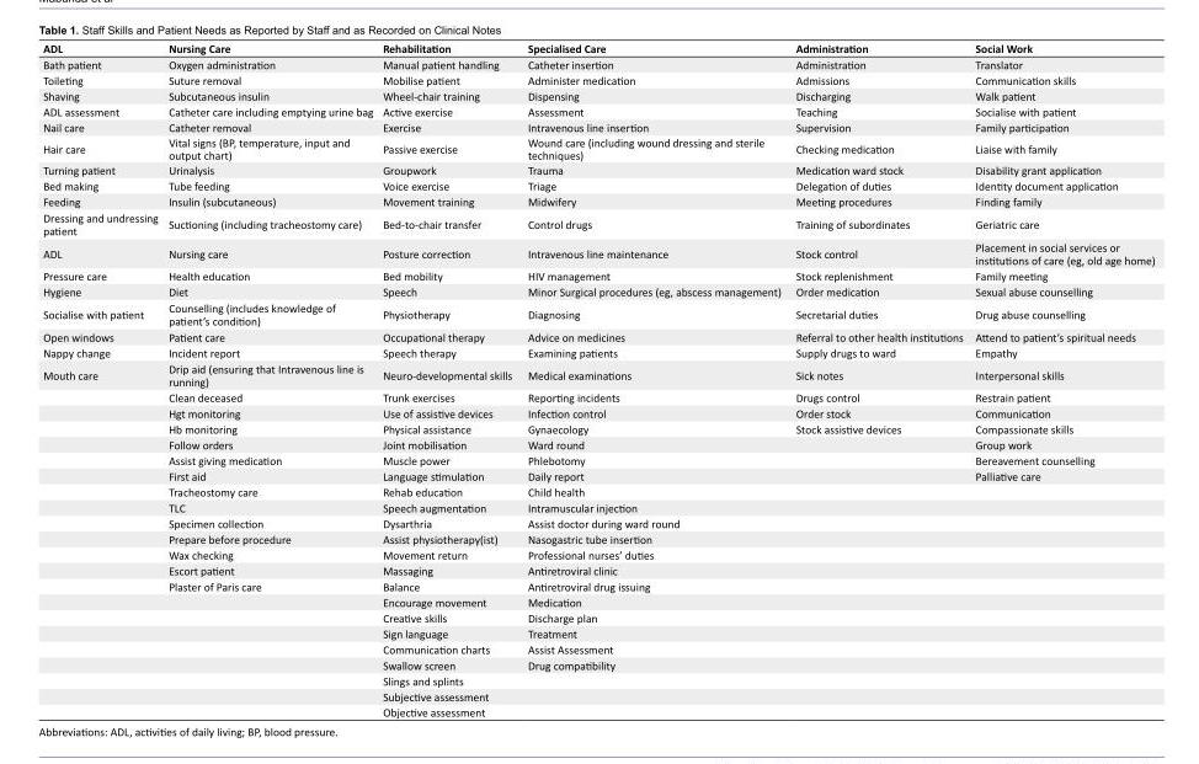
<table><tbody><tr><td>ADL</td><td>Nursing Care</td><td>Rehabilitation</td><td>Specialised Care</td><td>Administration</td><td>Social Work</td></tr><tr><td>Bath patient</td><td>Oxygen administration</td><td>Manual patient handling</td><td>Catheter insertion</td><td>Administration</td><td>Translator</td></tr><tr><td>Toileting</td><td>Suture removal</td><td>Mobilise patient</td><td>Administer medication</td><td>Admissions</td><td>Communication skills</td></tr><tr><td>Shaving</td><td>Subcutaneous insulin</td><td>Wheel-chair training</td><td>Dispensing</td><td>Discharging</td><td>Walk patient</td></tr><tr><td>ADL assessment</td><td>Catheter care including emptying urine bag</td><td>Active exercise</td><td>Assessment</td><td>Teaching</td><td>Socialise with patient</td></tr><tr><td>Nail care</td><td>Catheter removal</td><td>Exercise</td><td>Intravenous line insertion</td><td>Supervision</td><td>Family participation</td></tr><tr><td>Hair care</td><td>Vital signs (BP, temperature, input and output chart)</td><td>Passive exercise</td><td>Wound care (including wound dressing and sterile techniques)</td><td>Checking medication</td><td>Liaise with family</td></tr><tr><td>Turning patient</td><td>Urinalysis</td><td>Groupwork</td><td>Trauma</td><td>Medication ward stock</td><td>Disability grant application</td></tr><tr><td>Bed making</td><td>Tube feeding</td><td>Voice exercise</td><td>Triage</td><td>Delegation of duties</td><td>Identity document application</td></tr><tr><td>Feeding</td><td>Insulin (subcutaneous)</td><td>Movement training</td><td>Midwifery</td><td>Meeting procedures</td><td>Finding family</td></tr><tr><td>Dressing and undressing patient</td><td>Suctioning (including tracheostomy care)</td><td>Bed-to-chair transfer</td><td>Control drugs</td><td>Training of subordinates</td><td>Geriatric care</td></tr><tr><td>ADL</td><td>Nursing care</td><td>Posture correction</td><td>Intravenous line maintenance</td><td>Stock control</td><td>Placement in social services or institutions of care (eg, old age home)</td></tr><tr><td>Pressure care</td><td>Health education</td><td>Bed mobility</td><td>HIV management</td><td>Stock replenishment</td><td>Family meeting</td></tr><tr><td>Hygiene</td><td>Diet</td><td>Speech</td><td>Minor Surgical procedures (eg, abscess management)</td><td>Order medication</td><td>Sexual abuse counselling</td></tr><tr><td>Socialise with patient</td><td>Counselling (includes knowledge of patient’s condition)</td><td>Physiotherapy</td><td>Diagnosing</td><td>Secretarial duties</td><td>Drug abuse counselling</td></tr><tr><td>Open windows</td><td>Patient care</td><td>Occupational therapy</td><td>Advice on medicines</td><td>Referral to other health institutions</td><td>Attend to patient’s spiritual needs</td></tr><tr><td>Nappy change</td><td>Incident report</td><td>Speech therapy</td><td>Examining patients</td><td>Supply drugs to ward</td><td>Empathy</td></tr><tr><td rowspan="22">Mouth care</td><td>Drip aid (ensuring that Intravenous line is running)</td><td>Neuro-developmental skills</td><td>Medical examinations</td><td>Sick notes</td><td>Interpersonal skills</td></tr><tr><td>Clean deceased</td><td>Trunk exercises</td><td>Reporting incidents</td><td>Drugs control</td><td>Restrain patient</td></tr><tr><td>Hgt monitoring</td><td>Use of assistive devices</td><td>Infection control</td><td>Order stock</td><td>Communication</td></tr><tr><td>Hb monitoring</td><td>Physical assistance</td><td>Gynaecology</td><td>Stock assistive devices</td><td>Compassionate skills</td></tr><tr><td>Follow orders</td><td>Joint mobilisation</td><td>Ward round</td><td></td><td>Group work</td></tr><tr><td>Assist giving medication</td><td>Muscle power</td><td>Phlebotomy</td><td></td><td>Bereavement counselling</td></tr><tr><td>First aid</td><td>Language stimulation</td><td>Daily report</td><td></td><td>Palliative care</td></tr><tr><td>Tracheostomy care</td><td>Rehab education</td><td>Child health</td><td></td><td></td></tr><tr><td>TLC</td><td>Speech augmentation</td><td>Intramuscular injection</td><td></td><td></td></tr><tr><td>Specimen collection</td><td>Dysarthria</td><td>Assist doctor during ward round</td><td></td><td></td></tr><tr><td>Prepare before procedure</td><td>Assist physiotherapy(ist)</td><td>Nasogastric tube insertion</td><td></td><td></td></tr><tr><td>Wax checking</td><td>Movement return</td><td>Professional nurses’ duties</td><td></td><td></td></tr><tr><td>Escort patient</td><td>Massaging</td><td>Antiretroviral clinic</td><td></td><td></td></tr><tr><td>Plaster of Paris care</td><td>Balance</td><td>Antiretroviral drug issuing</td><td></td><td></td></tr><tr><td></td><td>Encourage movement</td><td>Medication</td><td></td><td></td></tr><tr><td></td><td>Creative skills</td><td>Discharge plan</td><td></td><td></td></tr><tr><td></td><td>Sign language</td><td>Treatment</td><td></td><td></td></tr><tr><td></td><td>Communication charts</td><td>Assist Assessment</td><td></td><td></td></tr><tr><td></td><td>Swallow screen</td><td>Drug compatibility</td><td></td><td></td></tr><tr><td></td><td>Slings and splints</td><td></td><td></td><td></td></tr><tr><td></td><td>Subjective assessment</td><td></td><td></td><td></td></tr><tr><td></td><td>Objective assessment</td><td></td><td></td><td></td></tr></tbody></table>